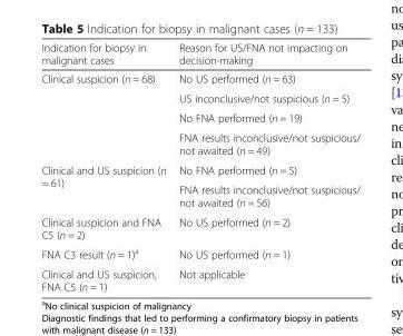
<table><thead><tr><td>Indication for biopsy in malignant cases</td><td>Reason for US/FNA not impacting on decision-making</td></tr></thead><tbody><tr><td rowspan="4">Clinical suspicion (n = 68)</td><td>No US performed (n = 63)</td></tr><tr><td>US inconclusive/not suspicious (n = 5)</td></tr><tr><td>No FNA performed (n = 19)</td></tr><tr><td>FNA results inconclusive/not suspicious/ not awaited (n = 49)</td></tr><tr><td rowspan="2">Clinical and US suspicion (n = 61)</td><td>No FNA performed (n = 5)</td></tr><tr><td>FNA results inconclusive/not suspicious/ not awaited (n = 56)</td></tr><tr><td>Clinical suspicion and FNA C5 (n = 2)</td><td>No US performed (n = 2)</td></tr><tr><td>FNA C3 result (n = 1)<sup>a</sup></td><td>No US performed (n = 1)</td></tr><tr><td>Clinical and US suspicion, FNA C5 (n = 1)</td><td>Not applicable</td></tr></tbody></table>